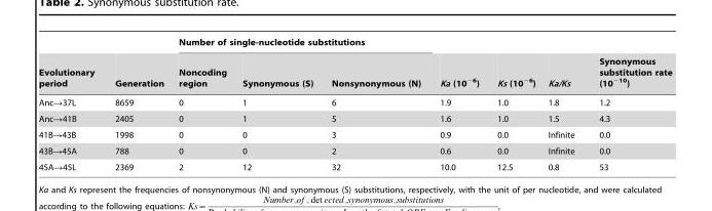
<table><thead><tr><td rowspan="2">Evolutionary period</td><td rowspan="2">Generation</td><td colspan="3">Number of single-nucleotide substitutions</td><td rowspan="2">Ka (10<sup>−6</sup>)</td><td rowspan="2">Ks (10<sup>−6</sup>)</td><td rowspan="2">Ka/Ks</td><td rowspan="2">Synonymous substitution rate (10<sup>−10</sup>)</td></tr><tr><td>Noncoding region</td><td>Synonymous (S)</td><td>Nonsynonymous (N)</td></tr></thead><tbody><tr><td>Anc→37L</td><td>8659</td><td>0</td><td>1</td><td>6</td><td>1.9</td><td>1.0</td><td>1.8</td><td>1.2</td></tr><tr><td>Anc→41B</td><td>2405</td><td>0</td><td>1</td><td>5</td><td>1.6</td><td>1.0</td><td>1.5</td><td>4.3</td></tr><tr><td>41B→43B</td><td>1998</td><td>0</td><td>0</td><td>3</td><td>0.9</td><td>0.0</td><td>Infinite</td><td>0.0</td></tr><tr><td>43B→45A</td><td>788</td><td>0</td><td>0</td><td>2</td><td>0.6</td><td>0.0</td><td>Infinite</td><td>0.0</td></tr><tr><td>45A→45L</td><td>2369</td><td>2</td><td>12</td><td>32</td><td>10.0</td><td>12.5</td><td>0.8</td><td>53</td></tr></tbody></table>